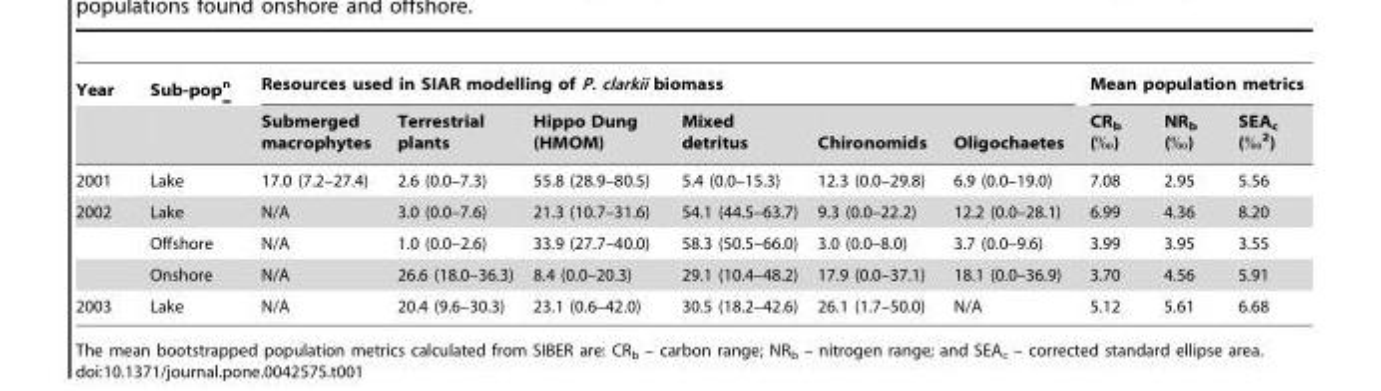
<table><thead><tr><td rowspan="2">Year</td><td rowspan="2">Sub-pop<sup>n</sup></td><td colspan="6">Resources used in SIAR modelling of P. clarkii biomass</td><td colspan="3">Mean population metrics</td></tr><tr><td>Submerged macrophytes</td><td>Terrestrial plants</td><td>Hippo Dung (HMOM)</td><td>Mixed detritus</td><td>Chironomids</td><td>Oligochaetes</td><td>CR<sub>b</sub> (‰)</td><td>NR<sub>b</sub> (‰)</td><td>SEA<sub>c</sub> (‰<sup>2</sup>)</td></tr></thead><tbody><tr><td>2001</td><td>Lake</td><td>17.0 (7.2–27.4)</td><td>2.6 (0.0–7.3)</td><td>55.8 (28.9–80.5)</td><td>5.4 (0.0–15.3)</td><td>12.3 (0.0–29.8)</td><td>6.9 (0.0–19.0)</td><td>7.08</td><td>2.95</td><td>5.56</td></tr><tr><td rowspan="3">2002</td><td>Lake</td><td>N/A</td><td>3.0 (0.0–7.6)</td><td>21.3 (10.7–31.6)</td><td>54.1 (44.5–63.7)</td><td>9.3 (0.0–22.2)</td><td>12.2 (0.0–28.1)</td><td>6.99</td><td>4.36</td><td>8.20</td></tr><tr><td>Offshore</td><td>N/A</td><td>1.0 (0.0–2.6)</td><td>33.9 (27.7–40.0)</td><td>58.3 (50.5–66.0)</td><td>3.0 (0.0–8.0)</td><td>3.7 (0.0–9.6)</td><td>3.99</td><td>3.95</td><td>3.55</td></tr><tr><td>Onshore</td><td>N/A</td><td>26.6 (18.0–36.3)</td><td>8.4 (0.0–20.3)</td><td>29.1 (10.4–48.2)</td><td>17.9 (0.0–37.1)</td><td>18.1 (0.0–36.9)</td><td>3.70</td><td>4.56</td><td>5.91</td></tr><tr><td>2003</td><td>Lake</td><td>N/A</td><td>20.4 (9.6–30.3)</td><td>23.1 (0.6–42.0)</td><td>30.5 (18.2–42.6)</td><td>26.1 (1.7–50.0)</td><td>N/A</td><td>5.12</td><td>5.61</td><td>6.68</td></tr></tbody></table>